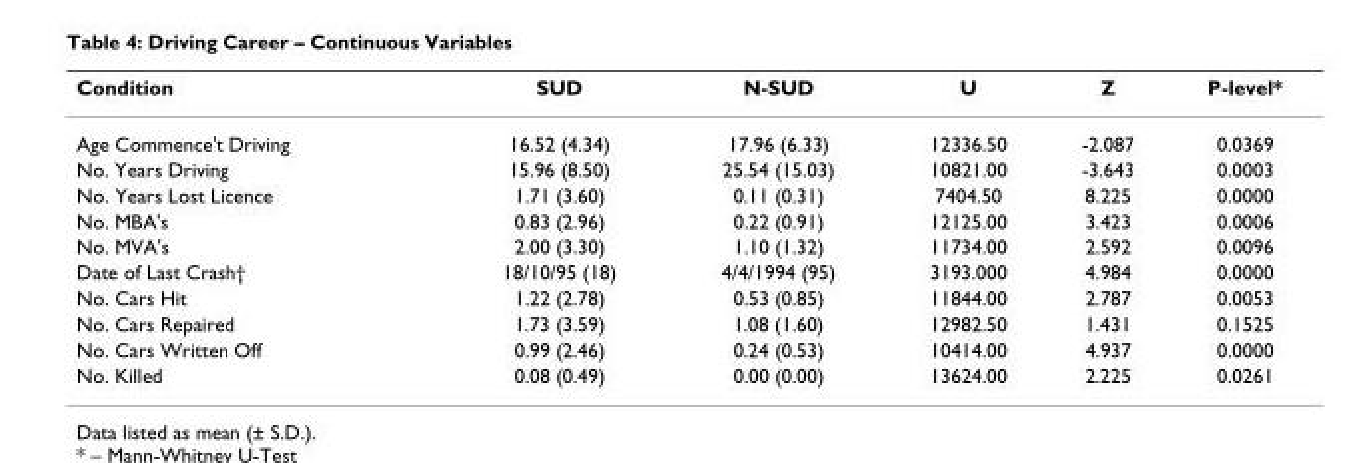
<table><thead><tr><td>Condition</td><td>SUD</td><td>N-SUD</td><td>U</td><td>Z</td><td>P-level*</td></tr></thead><tbody><tr><td>Age Commence&#x27;t Driving</td><td>16.52 (4.34)</td><td>17.96 (6.33)</td><td>12336.50</td><td>-2.087</td><td>0.0369</td></tr><tr><td>No. Years Driving</td><td>15.96 (8.50)</td><td>25.54 (15.03)</td><td>10821.00</td><td>-3.643</td><td>0.0003</td></tr><tr><td>No. Years Lost Licence</td><td>1.71 (3.60)</td><td>0.11 (0.31)</td><td>7404.50</td><td>8.225</td><td>0.0000</td></tr><tr><td>No. MBA&#x27;s</td><td>0.83 (2.96)</td><td>0.22 (0.91)</td><td>12125.00</td><td>3.423</td><td>0.0006</td></tr><tr><td>No. MVA&#x27;s</td><td>2.00 (3.30)</td><td>1.10 (1.32)</td><td>11734.00</td><td>2.592</td><td>0.0096</td></tr><tr><td>Date of Last Crash†</td><td>18/10/95 (18)</td><td>4/4/1994 (95)</td><td>3193.000</td><td>4.984</td><td>0.0000</td></tr><tr><td>No. Cars Hit</td><td>1.22 (2.78)</td><td>0.53 (0.85)</td><td>11844.00</td><td>2.787</td><td>0.0053</td></tr><tr><td>No. Cars Repaired</td><td>1.73 (3.59)</td><td>1.08 (1.60)</td><td>12982.50</td><td>1.431</td><td>0.1525</td></tr><tr><td>No. Cars Written Off</td><td>0.99 (2.46)</td><td>0.24 (0.53)</td><td>10414.00</td><td>4.937</td><td>0.0000</td></tr><tr><td>No. Killed</td><td>0.08 (0.49)</td><td>0.00 (0.00)</td><td>13624.00</td><td>2.225</td><td>0.0261</td></tr></tbody></table>